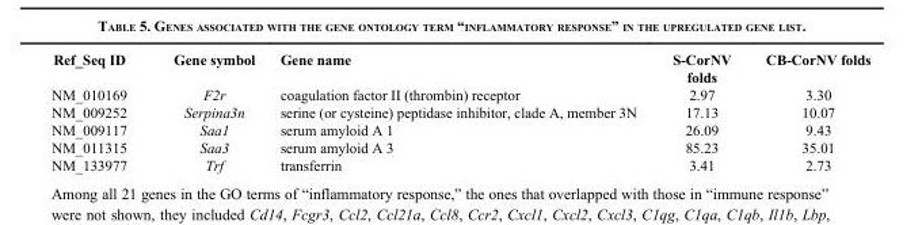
<table><thead><tr><td>Ref_Seq ID</td><td>Gene symbol</td><td>Gene name</td><td>S-CorNV folds</td><td>CB-CorNV folds</td></tr></thead><tbody><tr><td>NM_010169</td><td>F2r</td><td>coagulation factor II (thrombin) receptor</td><td>2.97</td><td>3.30</td></tr><tr><td>NM_009252</td><td>Serpina3n</td><td>serine (or cysteine) peptidase inhibitor, clade A, member 3N</td><td>17.13</td><td>10.07</td></tr><tr><td>NM_009117</td><td>Saa1</td><td>serum amyloid A 1</td><td>26.09</td><td>9.43</td></tr><tr><td>NM_011315</td><td>Saa3</td><td>serum amyloid A 3</td><td>85.23</td><td>35.01</td></tr><tr><td>NM_133977</td><td>Trf</td><td>transferrin</td><td>3.41</td><td>2.73</td></tr></tbody></table>